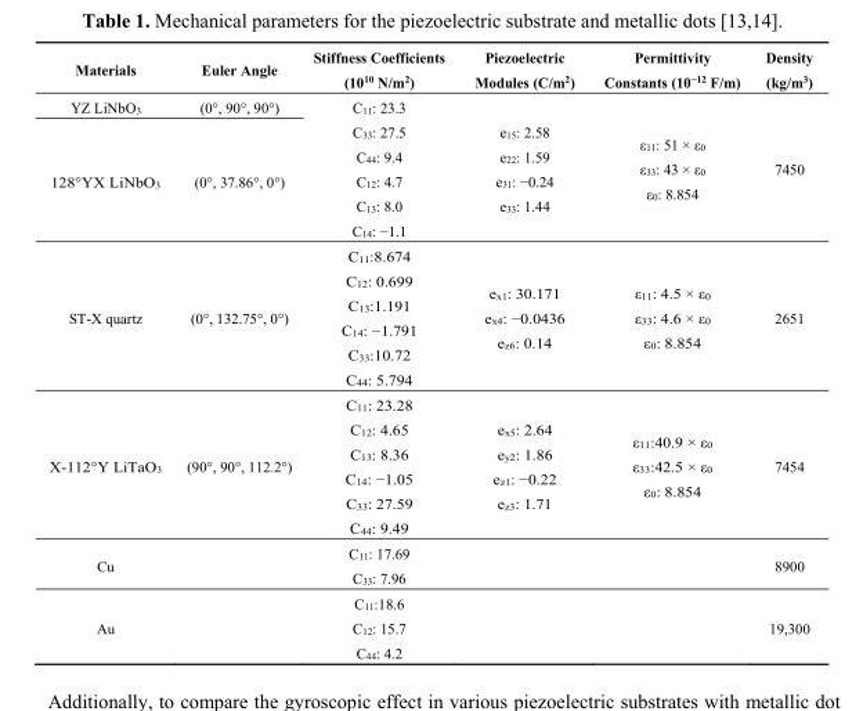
<table><thead><tr><td>Materials</td><td>Euler Angle</td><td>Stiffness Coefficients (10<sup>10</sup> N/m<sup>2</sup>)</td><td>Piezoelectric Modules (C/m<sup>2</sup>)</td><td>Permittivity Constants (10<sup>−12</sup> F/m)</td><td>Density (kg/m<sup>3</sup>)</td></tr></thead><tbody><tr><td>YZ LiNbO<sub>3</sub></td><td>(0°, 90°, 90°)</td><td rowspan="2">C<sub>11</sub>: 23.3 C<sub>33</sub>: 27.5 C<sub>44</sub>: 9.4 C<sub>12</sub>: 4.7 C<sub>13</sub>: 8.0 C<sub>14</sub>: −1.1</td><td rowspan="2">e<sub>15</sub>: 2.58 e<sub>22</sub>: 1.59 e<sub>31</sub>: −0.24 e<sub>33</sub>: 1.44</td><td rowspan="2">ε<sub>11</sub>: 51 × ε<sub>0</sub> ε<sub>33</sub>: 43 × ε<sub>0</sub> ε<sub>0</sub>: 8.854</td><td rowspan="2">7450</td></tr><tr><td>128°YX LiNbO<sub>3</sub></td><td>(0°, 37.86°, 0°)</td></tr><tr><td>ST-X quartz</td><td>(0°, 132.75°, 0°)</td><td>C<sub>11</sub>:8.674 C<sub>12</sub>: 0.699 C<sub>13</sub>:1.191 C<sub>14</sub>: −1.791 C<sub>33</sub>:10.72 C<sub>44</sub>: 5.794</td><td>e<sub>x1</sub>: 30.171 e<sub>x4</sub>: −0.0436 e<sub>z6</sub>: 0.14</td><td>ε<sub>11</sub>: 4.5 × ε<sub>0</sub> ε<sub>33</sub>: 4.6 × ε<sub>0</sub> ε<sub>0</sub>: 8.854</td><td>2651</td></tr><tr><td>X-112°Y LiTaO<sub>3</sub></td><td>(90°, 90°, 112.2°)</td><td>C<sub>11</sub>: 23.28 C<sub>12</sub>: 4.65 C<sub>13</sub>: 8.36 C<sub>14</sub>: −1.05 C<sub>33</sub>: 27.59 C<sub>44</sub>: 9.49</td><td>e<sub>x5</sub>: 2.64 e<sub>y2</sub>: 1.86 e<sub>z1</sub>: −0.22 e<sub>z3</sub>: 1.71</td><td>ε<sub>11</sub>:40.9 × ε<sub>0</sub> ε<sub>33</sub>:42.5 × ε<sub>0</sub> ε<sub>0</sub>: 8.854</td><td>7454</td></tr><tr><td>Cu</td><td></td><td>C<sub>11</sub>: 17.69 C<sub>33</sub>: 7.96</td><td></td><td></td><td>8900</td></tr><tr><td>Au</td><td></td><td>C<sub>11</sub>:18.6 C<sub>12</sub>: 15.7 C<sub>44</sub>: 4.2</td><td></td><td></td><td>19,300</td></tr></tbody></table>